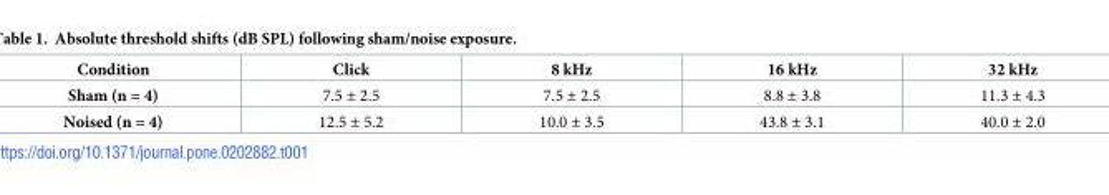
<table><thead><tr><td>Condition</td><td>Click</td><td>8 kHz</td><td>16 kHz</td><td>32 kHz</td></tr></thead><tbody><tr><td>Sham (n = 4)</td><td>7.5 ± 2.5</td><td>7.5 ± 2.5</td><td>8.8 ± 3.8</td><td>11.3 ± 4.3</td></tr><tr><td>Noised (n = 4)</td><td>12.5 ± 5.2</td><td>10.0 ± 3.5</td><td>43.8 ± 3.1</td><td>40.0 ± 2.0</td></tr></tbody></table>